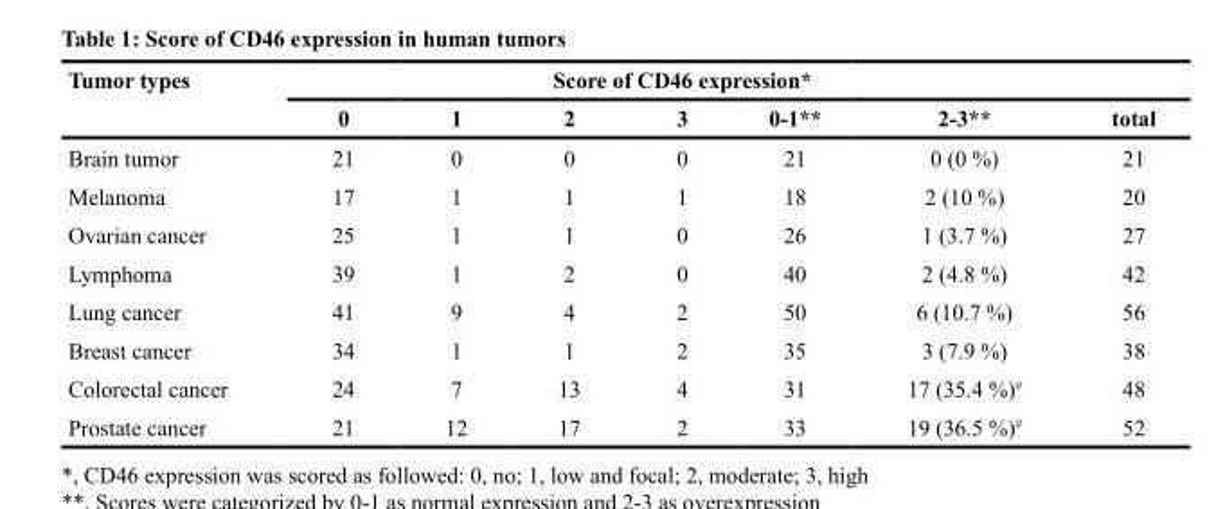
<table><thead><tr><td rowspan="2">Tumor types</td><td colspan="7">Score of CD46 expression*</td></tr><tr><td>0</td><td>1</td><td>2</td><td>3</td><td>0-1**</td><td>2-3**</td><td>total</td></tr></thead><tbody><tr><td>Brain tumor</td><td>21</td><td>0</td><td>0</td><td>0</td><td>21</td><td>0 (0 %)</td><td>21</td></tr><tr><td>Melanoma</td><td>17</td><td>1</td><td>1</td><td>1</td><td>18</td><td>2 (10 %)</td><td>20</td></tr><tr><td>Ovarian cancer</td><td>25</td><td>1</td><td>1</td><td>0</td><td>26</td><td>1 (3.7 %)</td><td>27</td></tr><tr><td>Lymphoma</td><td>39</td><td>1</td><td>2</td><td>0</td><td>40</td><td>2 (4.8 %)</td><td>42</td></tr><tr><td>Lung cancer</td><td>41</td><td>9</td><td>4</td><td>2</td><td>50</td><td>6 (10.7 %)</td><td>56</td></tr><tr><td>Breast cancer</td><td>34</td><td>1</td><td>1</td><td>2</td><td>35</td><td>3 (7.9 %)</td><td>38</td></tr><tr><td>Colorectal cancer</td><td>24</td><td>7</td><td>13</td><td>4</td><td>31</td><td>17 (35.4 %)#</td><td>48</td></tr><tr><td>Prostate cancer</td><td>21</td><td>12</td><td>17</td><td>2</td><td>33</td><td>19 (36.5 %)#</td><td>52</td></tr></tbody></table>